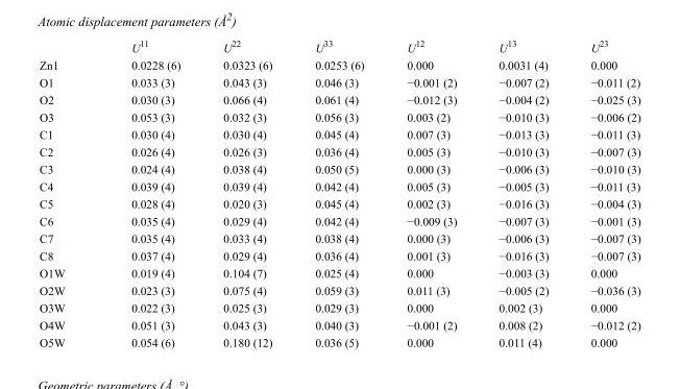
<table><thead><tr><td></td><td>U<sup>11</sup></td><td>U<sup>22</sup></td><td>U<sup>33</sup></td><td>U<sup>12</sup></td><td>U<sup>13</sup></td><td>U<sup>23</sup></td></tr></thead><tbody><tr><td>Zn1</td><td>0.0228 (6)</td><td>0.0323 (6)</td><td>0.0253 (6)</td><td>0.000</td><td>0.0031 (4)</td><td>0.000</td></tr><tr><td>O1</td><td>0.033 (3)</td><td>0.043 (3)</td><td>0.046 (3)</td><td>−0.001 (2)</td><td>−0.007 (2)</td><td>−0.011 (2)</td></tr><tr><td>O2</td><td>0.030 (3)</td><td>0.066 (4)</td><td>0.061 (4)</td><td>−0.012 (3)</td><td>−0.004 (2)</td><td>−0.025 (3)</td></tr><tr><td>O3</td><td>0.053 (3)</td><td>0.032 (3)</td><td>0.056 (3)</td><td>0.003 (2)</td><td>−0.010 (3)</td><td>−0.006 (2)</td></tr><tr><td>C1</td><td>0.030 (4)</td><td>0.030 (4)</td><td>0.045 (4)</td><td>0.007 (3)</td><td>−0.013 (3)</td><td>−0.011 (3)</td></tr><tr><td>C2</td><td>0.026 (4)</td><td>0.026 (3)</td><td>0.036 (4)</td><td>0.005 (3)</td><td>−0.010 (3)</td><td>−0.007 (3)</td></tr><tr><td>C3</td><td>0.024 (4)</td><td>0.038 (4)</td><td>0.050 (5)</td><td>0.000 (3)</td><td>−0.006 (3)</td><td>−0.010 (3)</td></tr><tr><td>C4</td><td>0.039 (4)</td><td>0.039 (4)</td><td>0.042 (4)</td><td>0.005 (3)</td><td>−0.005 (3)</td><td>−0.011 (3)</td></tr><tr><td>C5</td><td>0.028 (4)</td><td>0.020 (3)</td><td>0.045 (4)</td><td>0.002 (3)</td><td>−0.016 (3)</td><td>−0.004 (3)</td></tr><tr><td>C6</td><td>0.035 (4)</td><td>0.029 (4)</td><td>0.042 (4)</td><td>−0.009 (3)</td><td>−0.007 (3)</td><td>−0.001 (3)</td></tr><tr><td>C7</td><td>0.035 (4)</td><td>0.033 (4)</td><td>0.038 (4)</td><td>0.000 (3)</td><td>−0.006 (3)</td><td>−0.007 (3)</td></tr><tr><td>C8</td><td>0.037 (4)</td><td>0.029 (4)</td><td>0.036 (4)</td><td>0.001 (3)</td><td>−0.016 (3)</td><td>−0.007 (3)</td></tr><tr><td>O1W</td><td>0.019 (4)</td><td>0.104 (7)</td><td>0.025 (4)</td><td>0.000</td><td>−0.003 (3)</td><td>0.000</td></tr><tr><td>O2W</td><td>0.023 (3)</td><td>0.075 (4)</td><td>0.059 (3)</td><td>0.011 (3)</td><td>−0.005 (2)</td><td>−0.036 (3)</td></tr><tr><td>O3W</td><td>0.022 (3)</td><td>0.025 (3)</td><td>0.029 (3)</td><td>0.000</td><td>0.002 (3)</td><td>0.000</td></tr><tr><td>O4W</td><td>0.051 (3)</td><td>0.043 (3)</td><td>0.040 (3)</td><td>−0.001 (2)</td><td>0.008 (2)</td><td>−0.012 (2)</td></tr><tr><td>O5W</td><td>0.054 (6)</td><td>0.180 (12)</td><td>0.036 (5)</td><td>0.000</td><td>0.011 (4)</td><td>0.000</td></tr></tbody></table>